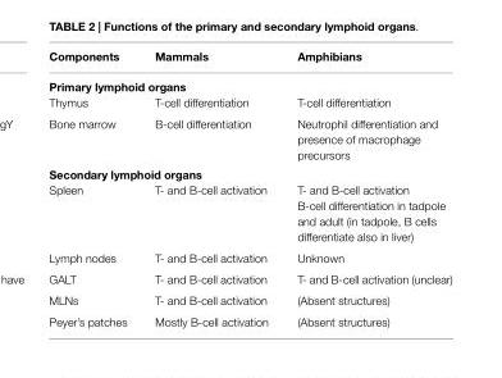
<table><thead><tr><td>Components</td><td>Mammals</td><td>Amphibians</td></tr></thead><tbody><tr><td colspan="3">Primary lymphoid organs</td></tr><tr><td>Thymus</td><td>T-cell differentiation</td><td>T-cell differentiation</td></tr><tr><td>Bone marrow</td><td>B-cell differentiation</td><td>Neutrophil differentiation and presence of macrophage precursors</td></tr><tr><td colspan="3">Secondary lymphoid organs</td></tr><tr><td rowspan="2">Spleen</td><td>T- and B-cell activation</td><td>T- and B-cell activation</td></tr><tr><td></td><td>B-cell differentiation in tadpole and adult (in tadpole, B cells differentiate also in liver)</td></tr><tr><td>Lymph nodes</td><td>T- and B-cell activation</td><td>Unknown</td></tr><tr><td>GALT</td><td>T- and B-cell activation</td><td>T- and B-cell activation (unclear)</td></tr><tr><td>MLNs</td><td>T- and B-cell activation</td><td>(Absent structures)</td></tr><tr><td>Peyer’s patches</td><td>Mostly B-cell activation</td><td>(Absent structures)</td></tr></tbody></table>